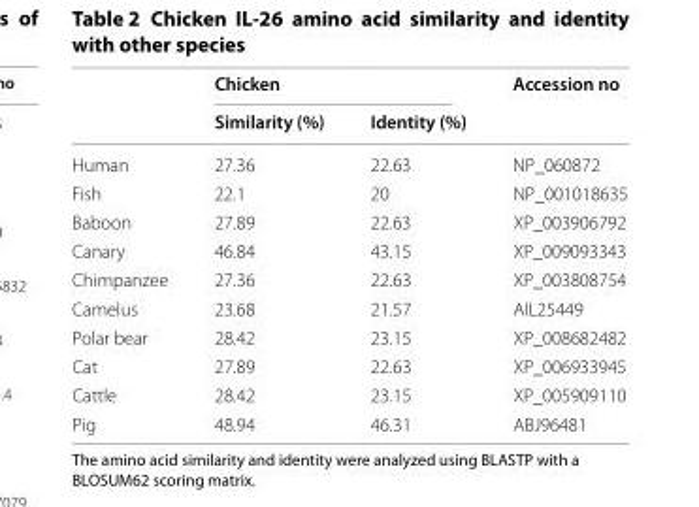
<table><thead><tr><td rowspan="2"></td><td colspan="2">Chicken</td><td rowspan="2">Accession no</td></tr><tr><td>Similarity (%)</td><td>Identity (%)</td></tr></thead><tbody><tr><td>Human</td><td>27.36</td><td>22.63</td><td>NP_060872</td></tr><tr><td>Fish</td><td>22.1</td><td>20</td><td>NP_001018635</td></tr><tr><td>Baboon</td><td>27.89</td><td>22.63</td><td>XP_003906792</td></tr><tr><td>Canary</td><td>46.84</td><td>43.15</td><td>XP_009093343</td></tr><tr><td>Chimpanzee</td><td>27.36</td><td>22.63</td><td>XP_003808754</td></tr><tr><td>Camelus</td><td>23.68</td><td>21.57</td><td>AIL25449</td></tr><tr><td>Polar bear</td><td>28.42</td><td>23.15</td><td>XP_008682482</td></tr><tr><td>Cat</td><td>27.89</td><td>22.63</td><td>XP_006933945</td></tr><tr><td>Cattle</td><td>28.42</td><td>23.15</td><td>XP_005909110</td></tr><tr><td>Pig</td><td>48.94</td><td>46.31</td><td>ABJ96481</td></tr></tbody></table>